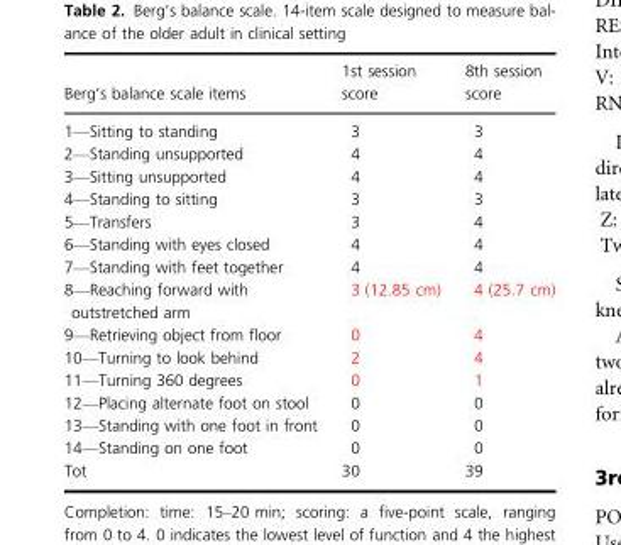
<table><thead><tr><td>Berg’s balance scale items</td><td>1st session score</td><td>8th session score</td></tr></thead><tbody><tr><td>1—Sitting to standing</td><td>3</td><td>3</td></tr><tr><td>2—Standing unsupported</td><td>4</td><td>4</td></tr><tr><td>3—Sitting unsupported</td><td>4</td><td>4</td></tr><tr><td>4—Standing to sitting</td><td>3</td><td>3</td></tr><tr><td>5—Transfers</td><td>3</td><td>4</td></tr><tr><td>6—Standing with eyes closed</td><td>4</td><td>4</td></tr><tr><td>7—Standing with feet together</td><td>4</td><td>4</td></tr><tr><td>8—Reaching forward with outstretched arm</td><td>3 (12.85 cm)</td><td>4 (25.7 cm)</td></tr><tr><td>9—Retrieving object from floor</td><td>0</td><td>4</td></tr><tr><td>10—Turning to look behind</td><td>2</td><td>4</td></tr><tr><td>11—Turning 360 degrees</td><td>0</td><td>1</td></tr><tr><td>12—Placing alternate foot on stool</td><td>0</td><td>0</td></tr><tr><td>13—Standing with one foot in front</td><td>0</td><td>0</td></tr><tr><td>14—Standing on one foot</td><td>0</td><td>0</td></tr><tr><td>Tot</td><td>30</td><td>39</td></tr></tbody></table>